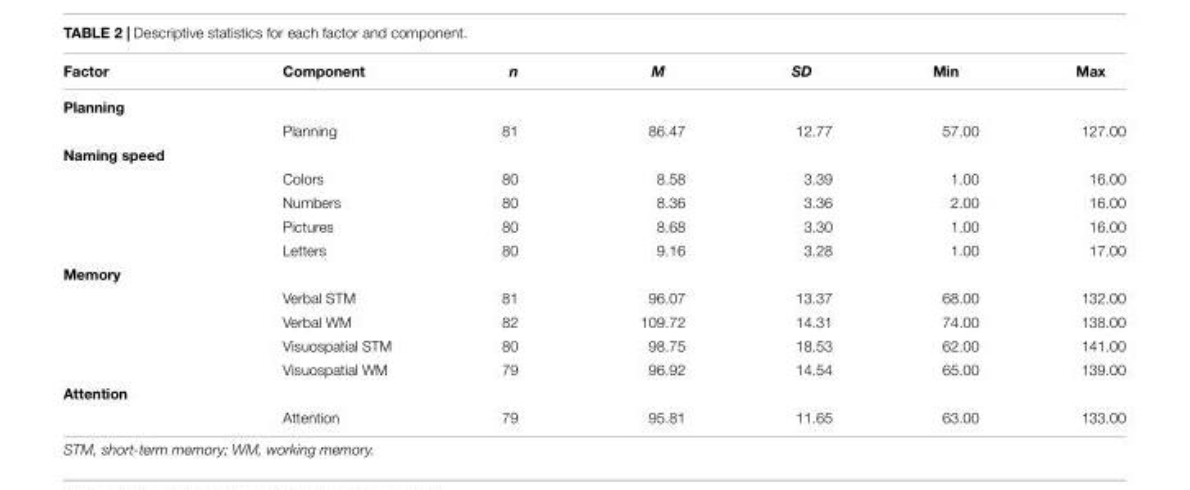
<table><thead><tr><td>Factor</td><td>Component</td><td>n</td><td>M</td><td>SD</td><td>Min</td><td>Max</td></tr></thead><tbody><tr><td colspan="7">Planning</td></tr><tr><td></td><td>Planning</td><td>81</td><td>86.47</td><td>12.77</td><td>57.00</td><td>127.00</td></tr><tr><td colspan="7">Naming speed</td></tr><tr><td></td><td>Colors</td><td>80</td><td>8.58</td><td>3.39</td><td>1.00</td><td>16.00</td></tr><tr><td></td><td>Numbers</td><td>80</td><td>8.36</td><td>3.36</td><td>2.00</td><td>16.00</td></tr><tr><td></td><td>Pictures</td><td>80</td><td>8.68</td><td>3.30</td><td>1.00</td><td>16.00</td></tr><tr><td></td><td>Letters</td><td>80</td><td>9.16</td><td>3.28</td><td>1.00</td><td>17.00</td></tr><tr><td colspan="7">Memory</td></tr><tr><td></td><td>Verbal STM</td><td>81</td><td>96.07</td><td>13.37</td><td>68.00</td><td>132.00</td></tr><tr><td></td><td>Verbal WM</td><td>82</td><td>109.72</td><td>14.31</td><td>74.00</td><td>138.00</td></tr><tr><td></td><td>Visuospatial STM</td><td>80</td><td>98.75</td><td>18.53</td><td>62.00</td><td>141.00</td></tr><tr><td></td><td>Visuospatial WM</td><td>79</td><td>96.92</td><td>14.54</td><td>65.00</td><td>139.00</td></tr><tr><td colspan="7">Attention</td></tr><tr><td></td><td>Attention</td><td>79</td><td>95.81</td><td>11.65</td><td>63.00</td><td>133.00</td></tr></tbody></table>